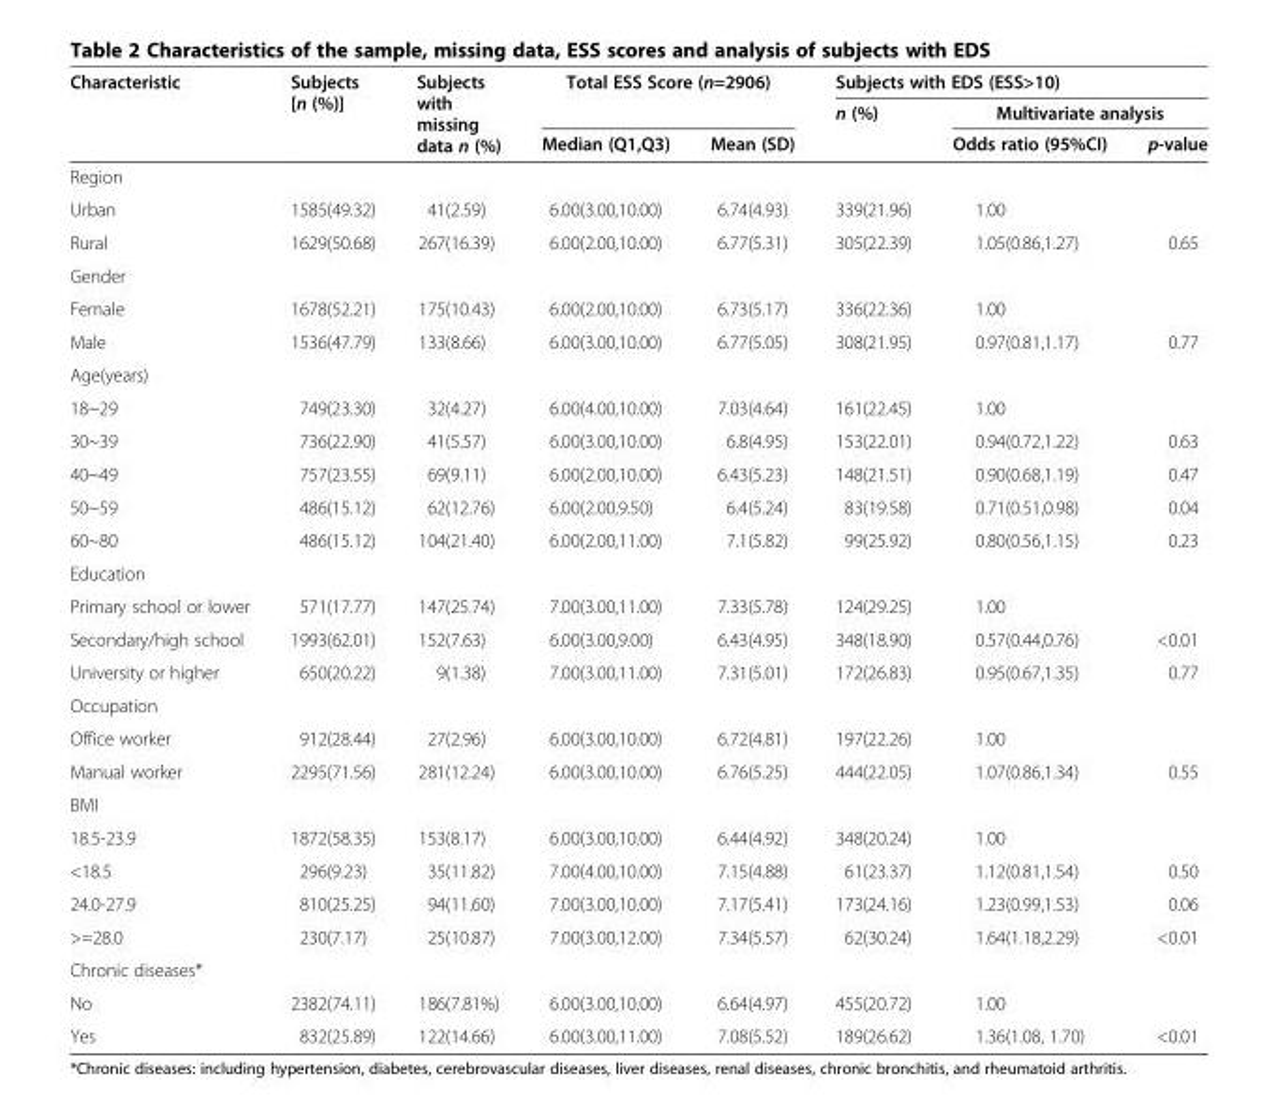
<table><thead><tr><td rowspan="3">Characteristic</td><td rowspan="3">Subjects [n (%)]</td><td rowspan="3">Subjects with missing data n (%)</td><td rowspan="2" colspan="2">Total ESS Score (n=2906)</td><td colspan="3">Subjects with EDS (ESS&gt;10)</td></tr><tr><td rowspan="2">n (%)</td><td colspan="2">Multivariate analysis</td></tr><tr><td>Median (Q1,Q3)</td><td>Mean (SD)</td><td>Odds ratio (95%CI)</td><td>p-value</td></tr></thead><tbody><tr><td colspan="8">Region</td></tr><tr><td>Urban</td><td>1585(49.32)</td><td>41(2.59)</td><td>6.00(3.00,10.00)</td><td>6.74(4.93)</td><td>339(21.96)</td><td>1.00</td><td></td></tr><tr><td>Rural</td><td>1629(50.68)</td><td>267(16.39)</td><td>6.00(2.00,10.00)</td><td>6.77(5.31)</td><td>305(22.39)</td><td>1.05(0.86,1.27)</td><td>0.65</td></tr><tr><td colspan="8">Gender</td></tr><tr><td>Female</td><td>1678(52.21)</td><td>175(10.43)</td><td>6.00(2.00,10.00)</td><td>6.73(5.17)</td><td>336(22.36)</td><td>1.00</td><td></td></tr><tr><td>Male</td><td>1536(47.79)</td><td>133(8.66)</td><td>6.00(3.00,10.00)</td><td>6.77(5.05)</td><td>308(21.95)</td><td>0.97(0.81,1.17)</td><td>0.77</td></tr><tr><td colspan="8">Age(years)</td></tr><tr><td>18~29</td><td>749(23.30)</td><td>32(4.27)</td><td>6.00(4.00,10.00)</td><td>7.03(4.64)</td><td>161(22.45)</td><td>1.00</td><td></td></tr><tr><td>30~39</td><td>736(22.90)</td><td>41(5.57)</td><td>6.00(3.00,10.00)</td><td>6.8(4.95)</td><td>153(22.01)</td><td>0.94(0.72,1.22)</td><td>0.63</td></tr><tr><td>40~49</td><td>757(23.55)</td><td>69(9.11)</td><td>6.00(2.00,10.00)</td><td>6.43(5.23)</td><td>148(21.51)</td><td>0.90(0.68,1.19)</td><td>0.47</td></tr><tr><td>50~59</td><td>486(15.12)</td><td>62(12.76)</td><td>6.00(2.00,9.50)</td><td>6.4(5.24)</td><td>83(19.58)</td><td>0.71(0.51,0.98)</td><td>0.04</td></tr><tr><td>60~80</td><td>486(15.12)</td><td>104(21.40)</td><td>6.00(2.00,11.00)</td><td>7.1(5.82)</td><td>99(25.92)</td><td>0.80(0.56,1.15)</td><td>0.23</td></tr><tr><td colspan="8">Education</td></tr><tr><td>Primary school or lower</td><td>571(17.77)</td><td>147(25.74)</td><td>7.00(3.00,11.00)</td><td>7.33(5.78)</td><td>124(29.25)</td><td>1.00</td><td></td></tr><tr><td>Secondary/high school</td><td>1993(62.01)</td><td>152(7.63)</td><td>6.00(3.00,9.00)</td><td>6.43(4.95)</td><td>348(18.90)</td><td>0.57(0.44,0.76)</td><td>&lt;0.01</td></tr><tr><td>University or higher</td><td>650(20.22)</td><td>9(1.38)</td><td>7.00(3.00,11.00)</td><td>7.31(5.01)</td><td>172(26.83)</td><td>0.95(0.67,1.35)</td><td>0.77</td></tr><tr><td colspan="8">Occupation</td></tr><tr><td>Office worker</td><td>912(28.44)</td><td>27(2.96)</td><td>6.00(3.00,10.00)</td><td>6.72(4.81)</td><td>197(22.26)</td><td>1.00</td><td></td></tr><tr><td>Manual worker</td><td>2295(71.56)</td><td>281(12.24)</td><td>6.00(3.00,10.00)</td><td>6.76(5.25)</td><td>444(22.05)</td><td>1.07(0.86,1.34)</td><td>0.55</td></tr><tr><td colspan="8">BMI</td></tr><tr><td>18.5-23.9</td><td>1872(58.35)</td><td>153(8.17)</td><td>6.00(3.00,10.00)</td><td>6.44(4.92)</td><td>348(20.24)</td><td>1.00</td><td></td></tr><tr><td>&lt;18.5</td><td>296(9.23)</td><td>35(11.82)</td><td>7.00(4.00,10.00)</td><td>7.15(4.88)</td><td>61(23.37)</td><td>1.12(0.81,1.54)</td><td>0.50</td></tr><tr><td>24.0-27.9</td><td>810(25.25)</td><td>94(11.60)</td><td>7.00(3.00,10.00)</td><td>7.17(5.41)</td><td>173(24.16)</td><td>1.23(0.99,1.53)</td><td>0.06</td></tr><tr><td>&gt;=28.0</td><td>230(7.17)</td><td>25(10.87)</td><td>7.00(3.00,12.00)</td><td>7.34(5.57)</td><td>62(30.24)</td><td>1.64(1.18,2.29)</td><td>&lt;0.01</td></tr><tr><td colspan="8">Chronic diseases*</td></tr><tr><td>No</td><td>2382(74.11)</td><td>186(7.81%)</td><td>6.00(3.00,10.00)</td><td>6.64(4.97)</td><td>455(20.72)</td><td>1.00</td><td></td></tr><tr><td>Yes</td><td>832(25.89)</td><td>122(14.66)</td><td>6.00(3.00,11.00)</td><td>7.08(5.52)</td><td>189(26.62)</td><td>1.36(1.08, 1.70)</td><td>&lt;0.01</td></tr></tbody></table>